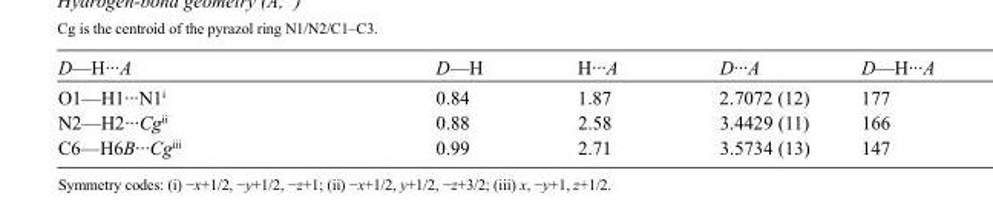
<table><tbody><tr><td>D—H···A</td><td>D—H</td><td>H···A</td><td>D···A</td><td>D—H···A</td></tr><tr><td>O1—H1···N1<sup>i</sup></td><td>0.84</td><td>1.87</td><td>2.7072 (12)</td><td>177</td></tr><tr><td>N2—H2···Cg<sup>ii</sup></td><td>0.88</td><td>2.58</td><td>3.4429 (11)</td><td>166</td></tr><tr><td>C6—H6B···Cg<sup>iii</sup></td><td>0.99</td><td>2.71</td><td>3.5734 (13)</td><td>147</td></tr></tbody></table>